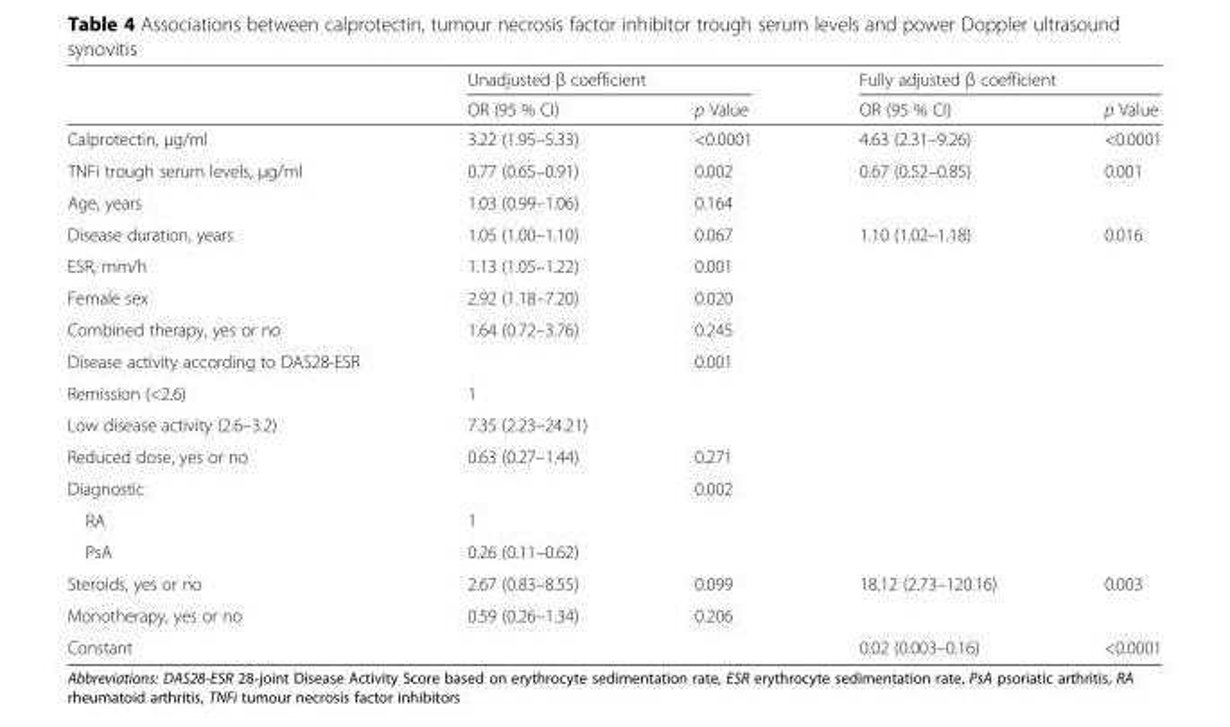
<table><thead><tr><td rowspan="2"></td><td colspan="2">Unadjusted β coefficient</td><td colspan="2">Fully adjusted β coefficient</td></tr><tr><td>OR (95 % CI)</td><td>p Value</td><td>OR (95 % CI)</td><td>p Value</td></tr></thead><tbody><tr><td>Calprotectin, μg/ml</td><td>3.22 (1.95–5.33)</td><td>&lt;0.0001</td><td>4.63 (2.31–9.26)</td><td>&lt;0.0001</td></tr><tr><td>TNFi trough serum levels, μg/ml</td><td>0.77 (0.65–0.91)</td><td>0.002</td><td>0.67 (0.52–0.85)</td><td>0.001</td></tr><tr><td>Age, years</td><td>1.03 (0.99–1.06)</td><td>0.164</td><td></td><td></td></tr><tr><td>Disease duration, years</td><td>1.05 (1.00–1.10)</td><td>0.067</td><td>1.10 (1.02–1.18)</td><td>0.016</td></tr><tr><td>ESR, mm/h</td><td>1.13 (1.05–1.22)</td><td>0.001</td><td></td><td></td></tr><tr><td>Female sex</td><td>2.92 (1.18–7.20)</td><td>0.020</td><td></td><td></td></tr><tr><td>Combined therapy, yes or no</td><td>1.64 (0.72–3.76)</td><td>0.245</td><td></td><td></td></tr><tr><td>Disease activity according to DAS28-ESR</td><td></td><td>0.001</td><td></td><td></td></tr><tr><td>Remission (&lt;2.6)</td><td>1</td><td></td><td></td><td></td></tr><tr><td>Low disease activity (2.6–3.2)</td><td>7.35 (2.23–24.21)</td><td></td><td></td><td></td></tr><tr><td>Reduced dose, yes or no</td><td>0.63 (0.27–1.44)</td><td>0.271</td><td></td><td></td></tr><tr><td>Diagnostic</td><td></td><td>0.002</td><td></td><td></td></tr><tr><td>RA</td><td>1</td><td></td><td></td><td></td></tr><tr><td>PsA</td><td>0.26 (0.11–0.62)</td><td></td><td></td><td></td></tr><tr><td>Steroids, yes or no</td><td>2.67 (0.83–8.55)</td><td>0.099</td><td>18.12 (2.73–120.16)</td><td>0.003</td></tr><tr><td>Monotherapy, yes or no</td><td>0.59 (0.26–1.34)</td><td>0.206</td><td></td><td></td></tr><tr><td>Constant</td><td></td><td></td><td>0.02 (0.003–0.16)</td><td>&lt;0.0001</td></tr></tbody></table>